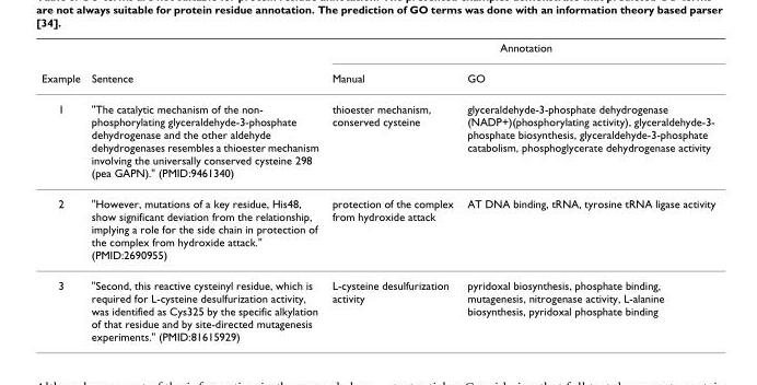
<table><thead><tr><td rowspan="2">Example</td><td rowspan="2">Sentence</td><td colspan="2">Annotation</td></tr><tr><td>Manual</td><td>GO</td></tr></thead><tbody><tr><td>1</td><td>&quot;The catalytic mechanism of the non- phosphorylating glyceraldehyde-3-phosphate dehydrogenase and the other aldehyde dehydrogenases resembles a thioester mechanism involving the universally conserved cysteine 298 (pea GAPN).&quot; (PMID:9461340)</td><td>thioester mechanism, conserved cysteine</td><td>glyceraldehyde-3-phosphate dehydrogenase (NADP+)(phosphorylating activity), glyceraldehyde-3- phosphate biosynthesis, glyceraldehyde-3-phosphate catabolism, phosphoglycerate dehydrogenase activity</td></tr><tr><td>2</td><td>&quot;However, mutations of a key residue, His48, show significant deviation from the relationship, implying a role for the side chain in protection of the complex from hydroxide attack.&quot; (PMID:2690955)</td><td>protection of the complex from hydroxide attack</td><td>AT DNA binding, tRNA, tyrosine tRNA ligase activity</td></tr><tr><td>3</td><td>&quot;Second, this reactive cysteinyl residue, which is required for L-cysteine desulfurization activity, was identified as Cys325 by the specific alkylation of that residue and by site-directed mutagenesis experiments.&quot; (PMID:81615929)</td><td>L-cysteine desulfurization activity</td><td>pyridoxal biosynthesis, phosphate binding, mutagenesis, nitrogenase activity, L-alanine biosynthesis, pyridoxal phosphate binding</td></tr></tbody></table>